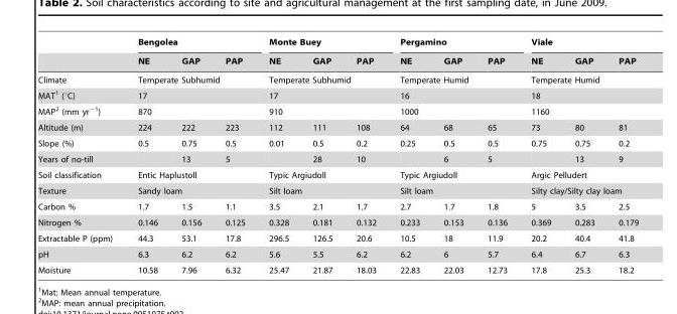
<table><thead><tr><td rowspan="2"></td><td colspan="3">Bengolea</td><td colspan="3">Monte Buey</td><td colspan="3">Pergamino</td><td colspan="3">Viale</td></tr><tr><td>NE</td><td>GAP</td><td>PAP</td><td>NE</td><td>GAP</td><td>PAP</td><td>NE</td><td>GAP</td><td>PAP</td><td>NE</td><td>GAP</td><td>PAP</td></tr></thead><tbody><tr><td>Climate</td><td colspan="3">Temperate Subhumid</td><td colspan="3">Temperate Subhumid</td><td colspan="3">Temperate Humid</td><td colspan="3">Temperate Humid</td></tr><tr><td>MAT<sup>1</sup> (°C)</td><td colspan="3">17</td><td colspan="3">17</td><td colspan="3">16</td><td colspan="3">18</td></tr><tr><td>MAP<sup>2</sup> (mm yr<sup>−1</sup>)</td><td colspan="3">870</td><td colspan="3">910</td><td colspan="3">1000</td><td colspan="3">1160</td></tr><tr><td>Altitude (m)</td><td>224</td><td>222</td><td>223</td><td>112</td><td>111</td><td>108</td><td>64</td><td>68</td><td>65</td><td>73</td><td>80</td><td>81</td></tr><tr><td>Slope (%)</td><td>0.5</td><td>0.75</td><td>0.5</td><td>0.01</td><td>0.5</td><td>0.2</td><td>0.25</td><td>0.5</td><td>0.5</td><td>0.75</td><td>0.75</td><td>0.2</td></tr><tr><td>Years of no-till</td><td></td><td>13</td><td>5</td><td></td><td>28</td><td>10</td><td></td><td>6</td><td>5</td><td></td><td>13</td><td>9</td></tr><tr><td>Soil classification</td><td colspan="3">Entic Haplustoll</td><td colspan="3">Typic Argiudoll</td><td colspan="3">Typic Argiudoll</td><td colspan="3">Argic Pelludert</td></tr><tr><td>Texture</td><td colspan="3">Sandy loam</td><td colspan="3">Silt loam</td><td colspan="3">Silt loam</td><td colspan="3">Silty clay/Silty clay loam</td></tr><tr><td>Carbon %</td><td>1.7</td><td>1.5</td><td>1.1</td><td>3.5</td><td>2.1</td><td>1.7</td><td>2.7</td><td>1.7</td><td>1.8</td><td>5</td><td>3.5</td><td>2.5</td></tr><tr><td>Nitrogen %</td><td>0.146</td><td>0.156</td><td>0.125</td><td>0.328</td><td>0.181</td><td>0.132</td><td>0.233</td><td>0.153</td><td>0.136</td><td>0.369</td><td>0.283</td><td>0.179</td></tr><tr><td>Extractable P (ppm)</td><td>44.3</td><td>53.1</td><td>17.8</td><td>296.5</td><td>126.5</td><td>20.6</td><td>10.5</td><td>18</td><td>11.9</td><td>20.2</td><td>40.4</td><td>41.8</td></tr><tr><td>pH</td><td>6.3</td><td>6.2</td><td>6.2</td><td>5.6</td><td>5.5</td><td>6.2</td><td>6.2</td><td>6</td><td>5.7</td><td>6.4</td><td>6.7</td><td>6.3</td></tr><tr><td>Moisture</td><td>10.58</td><td>7.96</td><td>6.32</td><td>25.47</td><td>21.87</td><td>18.03</td><td>22.83</td><td>22.03</td><td>12.73</td><td>17.8</td><td>25.3</td><td>18.2</td></tr></tbody></table>